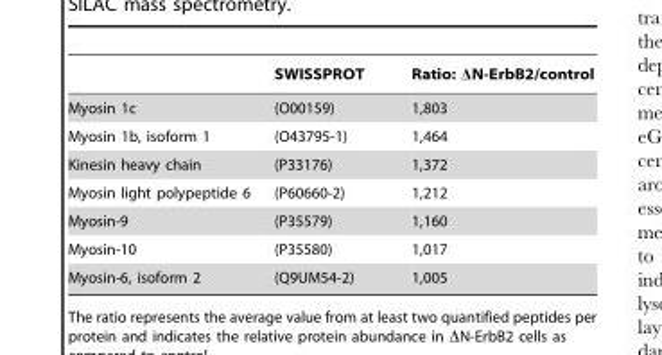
<table><thead><tr><td></td><td>SWISSPROT</td><td>Ratio: ΔN-ErbB2/control</td></tr></thead><tbody><tr><td>Myosin 1c</td><td>(O00159)</td><td>1,803</td></tr><tr><td>Myosin 1b, isoform 1</td><td>(O43795-1)</td><td>1,464</td></tr><tr><td>Kinesin heavy chain</td><td>(P33176)</td><td>1,372</td></tr><tr><td>Myosin light polypeptide 6</td><td>(P60660-2)</td><td>1,212</td></tr><tr><td>Myosin-9</td><td>(P35579)</td><td>1,160</td></tr><tr><td>Myosin-10</td><td>(P35580)</td><td>1,017</td></tr><tr><td>Myosin-6, isoform 2</td><td>(Q9UM54-2)</td><td>1,005</td></tr></tbody></table>